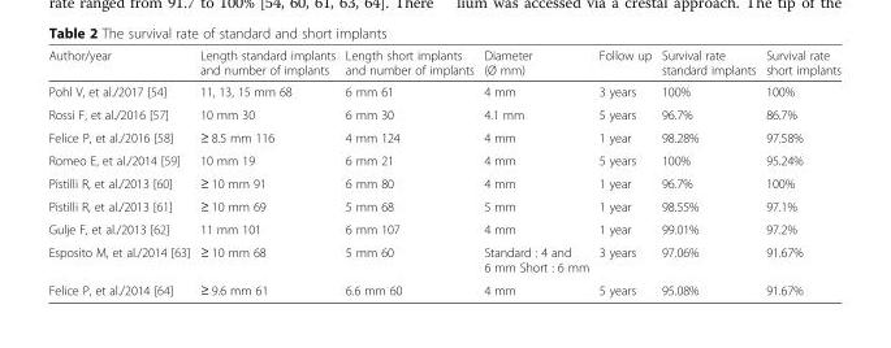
<table><thead><tr><td>Author/year</td><td>Length standard implants and number of implants</td><td>Length short implants and number of implants</td><td>Diameter (Ø mm)</td><td>Follow up</td><td>Survival rate standard implants</td><td>Survival rate short implants</td></tr></thead><tbody><tr><td>Pohl V, et al./2017 [54]</td><td>11, 13, 15 mm 68</td><td>6 mm 61</td><td>4 mm</td><td>3 years</td><td>100%</td><td>100%</td></tr><tr><td>Rossi F, et al./2016 [57]</td><td>10 mm 30</td><td>6 mm 30</td><td>4.1 mm</td><td>5 years</td><td>96.7%</td><td>86.7%</td></tr><tr><td>Felice P, et al./2016 [58]</td><td>≥ 8.5 mm 116</td><td>4 mm 124</td><td>4 mm</td><td>1 year</td><td>98.28%</td><td>97.58%</td></tr><tr><td>Romeo E, et al./2014 [59]</td><td>10 mm 19</td><td>6 mm 21</td><td>4 mm</td><td>5 years</td><td>100%</td><td>95.24%</td></tr><tr><td>Pistilli R, et al./2013 [60]</td><td>≥ 10 mm 91</td><td>6 mm 80</td><td>4 mm</td><td>1 year</td><td>96.7%</td><td>100%</td></tr><tr><td>Pistilli R, et al./2013 [61]</td><td>≥ 10 mm 69</td><td>5 mm 68</td><td>5 mm</td><td>1 year</td><td>98.55%</td><td>97.1%</td></tr><tr><td>Gulje F, et al./2013 [62]</td><td>11 mm 101</td><td>6 mm 107</td><td>4 mm</td><td>1 year</td><td>99.01%</td><td>97.2%</td></tr><tr><td>Esposito M, et al./2014 [63]</td><td>≥ 10 mm 68</td><td>5 mm 60</td><td>Standard : 4 and 6 mm Short : 6 mm</td><td>3 years</td><td>97.06%</td><td>91.67%</td></tr><tr><td>Felice P, et al./2014 [64]</td><td>≥ 9.6 mm 61</td><td>6.6 mm 60</td><td>4 mm</td><td>5 years</td><td>95.08%</td><td>91.67%</td></tr></tbody></table>